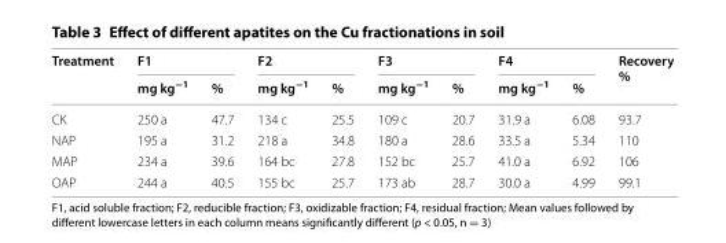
<table><thead><tr><td rowspan="2">Treatment</td><td colspan="2">F1</td><td colspan="2">F2</td><td colspan="2">F3</td><td colspan="2">F4</td><td rowspan="2">Recovery %</td></tr><tr><td>mg kg<sup>−1</sup></td><td>%</td><td>mg kg<sup>−1</sup></td><td>%</td><td>mg kg<sup>−1</sup></td><td>%</td><td>mg kg<sup>−1</sup></td><td>%</td></tr></thead><tbody><tr><td>CK</td><td>250 a</td><td>47.7</td><td>134 c</td><td>25.5</td><td>109 c</td><td>20.7</td><td>31.9 a</td><td>6.08</td><td>93.7</td></tr><tr><td>NAP</td><td>195 a</td><td>31.2</td><td>218 a</td><td>34.8</td><td>180 a</td><td>28.6</td><td>33.5 a</td><td>5.34</td><td>110</td></tr><tr><td>MAP</td><td>234 a</td><td>39.6</td><td>164 bc</td><td>27.8</td><td>152 bc</td><td>25.7</td><td>41.0 a</td><td>6.92</td><td>106</td></tr><tr><td>OAP</td><td>244 a</td><td>40.5</td><td>155 bc</td><td>25.7</td><td>173 ab</td><td>28.7</td><td>30.0 a</td><td>4.99</td><td>99.1</td></tr></tbody></table>